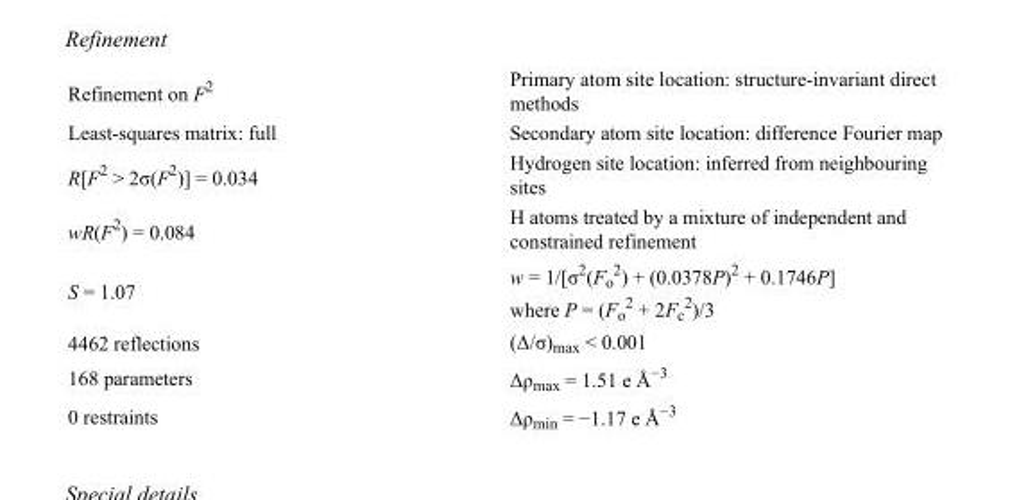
<table><tbody><tr><td>Refinement on F<sup>2</sup></td><td>Primary atom site location: structure-invariant direct methods</td></tr><tr><td>Least-squares matrix: full</td><td>Secondary atom site location: difference Fourier map</td></tr><tr><td>R[F<sup>2</sup> &gt; 2σ(F<sup>2</sup>)] = 0.034</td><td>Hydrogen site location: inferred from neighbouring sites</td></tr><tr><td>wR(F<sup>2</sup>) = 0.084</td><td>H atoms treated by a mixture of independent and constrained refinement</td></tr><tr><td>S = 1.07</td><td>w = 1/[σ<sup>2</sup>(F<sub>o</sub> <sup>2</sup>) + (0.0378P)<sup>2</sup> + 0.1746P] where P = (F<sub>o</sub> <sup>2</sup> + 2F<sub>c</sub> <sup>2</sup>)/3</td></tr><tr><td>4462 reflections</td><td>(Δ/σ)<sub>max</sub> &lt; 0.001</td></tr><tr><td>168 parameters</td><td>Δρ<sub>max</sub> = 1.51 e Å<sup>−3</sup></td></tr><tr><td>0 restraints</td><td>Δρ<sub>min</sub> = −1.17 e Å<sup>−3</sup></td></tr></tbody></table>